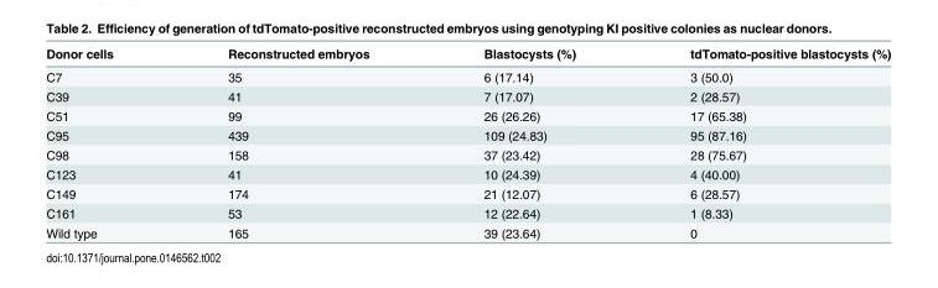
<table><thead><tr><td>Donor cells</td><td>Reconstructed embryos</td><td>Blastocysts (%)</td><td>tdTomato-positive blastocysts (%)</td></tr></thead><tbody><tr><td>C7</td><td>35</td><td>6 (17.14)</td><td>3 (50.0)</td></tr><tr><td>C39</td><td>41</td><td>7 (17.07)</td><td>2 (28.57)</td></tr><tr><td>C51</td><td>99</td><td>26 (26.26)</td><td>17 (65.38)</td></tr><tr><td>C95</td><td>439</td><td>109 (24.83)</td><td>95 (87.16)</td></tr><tr><td>C98</td><td>158</td><td>37 (23.42)</td><td>28 (75.67)</td></tr><tr><td>C123</td><td>41</td><td>10 (24.39)</td><td>4 (40.00)</td></tr><tr><td>C149</td><td>174</td><td>21 (12.07)</td><td>6 (28.57)</td></tr><tr><td>C161</td><td>53</td><td>12 (22.64)</td><td>1 (8.33)</td></tr><tr><td>Wild type</td><td>165</td><td>39 (23.64)</td><td>0</td></tr></tbody></table>